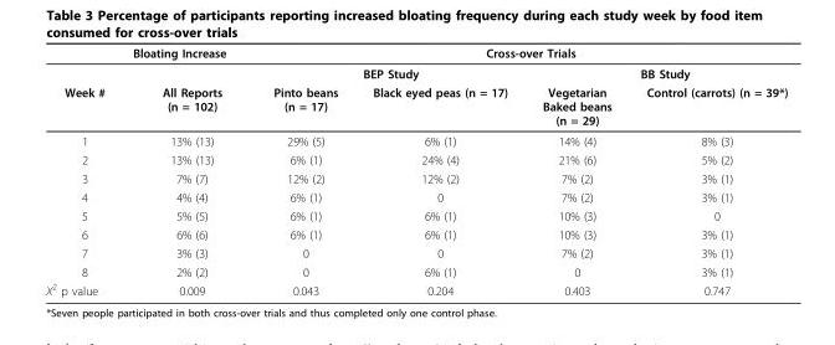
<table><thead><tr><td rowspan="3">Week #</td><td rowspan="3">Bloating Increase All Reports (n = 102)</td><td colspan="4">Cross-over Trials</td></tr><tr><td colspan="2">BEP Study</td><td colspan="2">BB Study</td></tr><tr><td>Pinto beans (n = 17)</td><td>Black eyed peas (n = 17)</td><td>Vegetarian Baked beans (n = 29)</td><td>Control (carrots) (n = 39*)</td></tr></thead><tbody><tr><td>1</td><td>13% (13)</td><td>29% (5)</td><td>6% (1)</td><td>14% (4)</td><td>8% (3)</td></tr><tr><td>2</td><td>13% (13)</td><td>6% (1)</td><td>24% (4)</td><td>21% (6)</td><td>5% (2)</td></tr><tr><td>3</td><td>7% (7)</td><td>12% (2)</td><td>12% (2)</td><td>7% (2)</td><td>3% (1)</td></tr><tr><td>4</td><td>4% (4)</td><td>6% (1)</td><td>0</td><td>7% (2)</td><td>3% (1)</td></tr><tr><td>5</td><td>5% (5)</td><td>6% (1)</td><td>6% (1)</td><td>10% (3)</td><td>0</td></tr><tr><td>6</td><td>6% (6)</td><td>6% (1)</td><td>6% (1)</td><td>10% (3)</td><td>3% (1)</td></tr><tr><td>7</td><td>3% (3)</td><td>0</td><td>0</td><td>7% (2)</td><td>3% (1)</td></tr><tr><td>8</td><td>2% (2)</td><td>0</td><td>6% (1)</td><td>0</td><td>3% (1)</td></tr><tr><td>X<sup>2</sup> p value</td><td>0.009</td><td>0.043</td><td>0.204</td><td>0.403</td><td>0.747</td></tr></tbody></table>